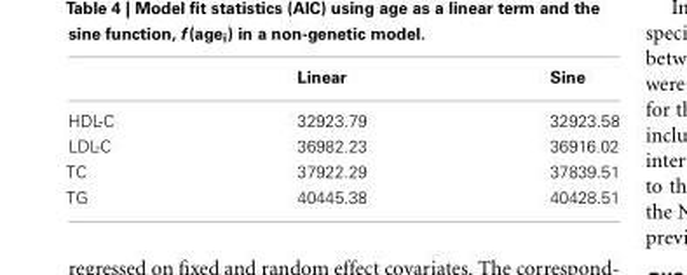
<table><thead><tr><td></td><td>Linear</td><td>Sine</td></tr></thead><tbody><tr><td>HDL-C</td><td>32923.79</td><td>32923.58</td></tr><tr><td>LDL-C</td><td>36982.23</td><td>36916.02</td></tr><tr><td>TC</td><td>37922.29</td><td>37839.51</td></tr><tr><td>TG</td><td>40445.38</td><td>40428.51</td></tr></tbody></table>